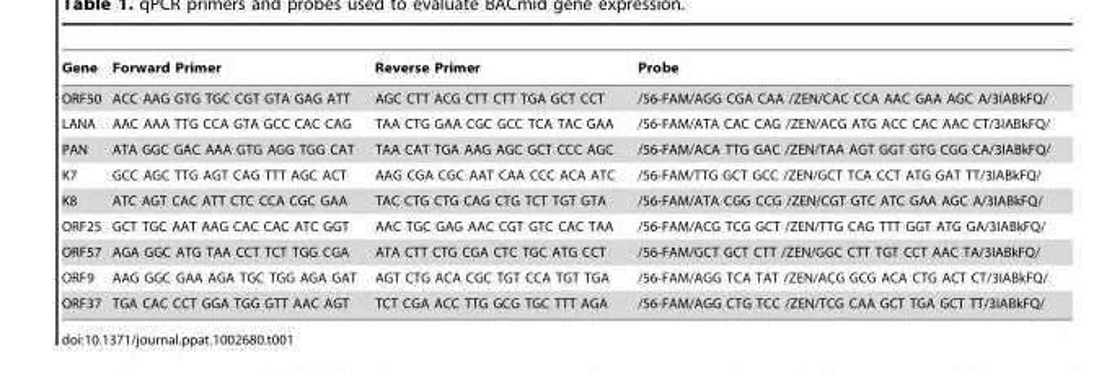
<table><thead><tr><td>Gene</td><td>Forward Primer</td><td>Reverse Primer</td><td>Probe</td></tr></thead><tbody><tr><td>ORF50</td><td>ACC AAG GTG TGC CGT GTA GAG ATT</td><td>AGC CTT ACG CTT CTT TGA GCT CCT</td><td>/56-FAM/AGG CGA CAA /ZEN/CAC CCA AAC GAA AGC A/3IABkFQ/</td></tr><tr><td>LANA</td><td>AAC AAA TTG CCA GTA GCC CAC CAG</td><td>TAA CTG GAA CGC GCC TCA TAC GAA</td><td>/56-FAM/ATA CAC CAG /ZEN/ACG ATG ACC CAC AAC CT/3IABkFQ/</td></tr><tr><td>PAN</td><td>ATA GGC GAC AAA GTG AGG TGG CAT</td><td>TAA CAT TGA AAG AGC GCT CCC AGC</td><td>/56-FAM/ACA TTG GAC /ZEN/TAA AGT GGT GTG CGG CA/3IABkFQ/</td></tr><tr><td>K7</td><td>GCC AGC TTG AGT CAG TTT AGC ACT</td><td>AAG CGA CGC AAT CAA CCC ACA ATC</td><td>/56-FAM/TTG GCT GCC /ZEN/GCT TCA CCT ATG GAT TT/3IABkFQ/</td></tr><tr><td>K8</td><td>ATC AGT CAC ATT CTC CCA CGC GAA</td><td>TAC CTG CTG CAG CTG TCT TGT GTA</td><td>/56-FAM/ATA CGG CCG /ZEN/CGT GTC ATC GAA AGC A/3IABkFQ/</td></tr><tr><td>ORF25</td><td>GCT TGC AAT AAG CAC CAC ATC GGT</td><td>AAC TGC GAG AAC CGT GTC CAC TAA</td><td>/56-FAM/ACG TCG GCT /ZEN/TTG CAG TTT GGT ATG GA/3IABkFQ/</td></tr><tr><td>ORF57</td><td>AGA GGC ATG TAA CCT TCT TGG CGA</td><td>ATA CTT CTG CGA CTC TGC ATG CCT</td><td>/56-FAM/GCT GCT CTT /ZEN/GGC CTT TGT CCT AAC TA/3IABkFQ/</td></tr><tr><td>ORF9</td><td>AAG GGC GAA AGA TGC TGG AGA GAT</td><td>AGT CTG ACA CGC TGT CCA TGT TGA</td><td>/56-FAM/AGG TCA TAT /ZEN/ACG GCG ACA CTG ACT CT/3IABkFQ/</td></tr><tr><td>ORF37</td><td>TGA CAC CCT GGA TGG GTT AAC AGT</td><td>TCT CGA ACC TTG GCG TGC TTT AGA</td><td>/56-FAM/AGG CTG TCC /ZEN/TCG CAA GCT TGA GCT TT/3IABkFQ/</td></tr></tbody></table>